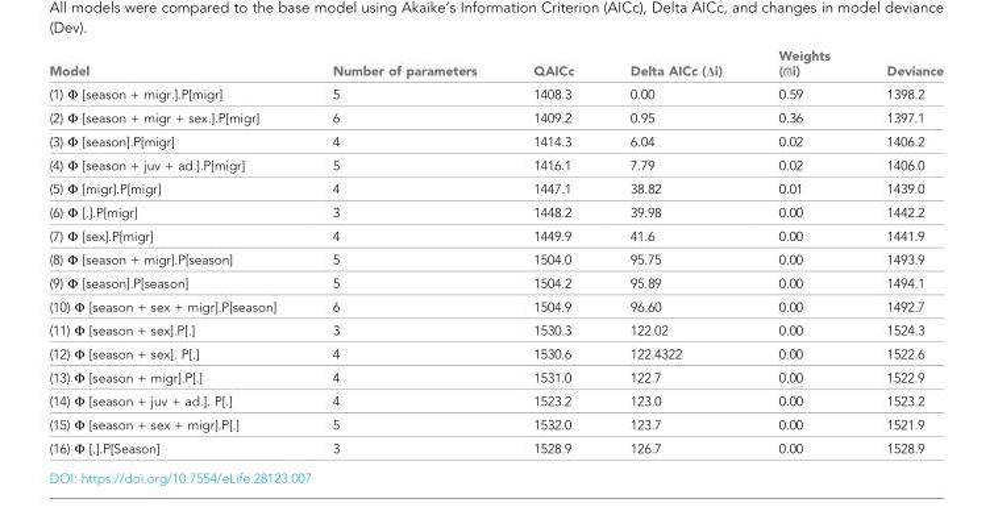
<table><thead><tr><td>Model</td><td>Number of parameters</td><td>QAICc</td><td>Delta AICc (Δi)</td><td>Weights (ωi)</td><td>Deviance</td></tr></thead><tbody><tr><td>(1) Φ [season + migr.].P[migr]</td><td>5</td><td>1408.3</td><td>0.00</td><td>0.59</td><td>1398.2</td></tr><tr><td>(2) Φ [season + migr + sex.].P[migr]</td><td>6</td><td>1409.2</td><td>0.95</td><td>0.36</td><td>1397.1</td></tr><tr><td>(3) Φ [season].P[migr]</td><td>4</td><td>1414.3</td><td>6.04</td><td>0.02</td><td>1406.2</td></tr><tr><td>(4) Φ [season + juv + ad.].P[migr]</td><td>5</td><td>1416.1</td><td>7.79</td><td>0.02</td><td>1406.0</td></tr><tr><td>(5) Φ [migr].P[migr]</td><td>4</td><td>1447.1</td><td>38.82</td><td>0.01</td><td>1439.0</td></tr><tr><td>(6) Φ [.].P[migr]</td><td>3</td><td>1448.2</td><td>39.98</td><td>0.00</td><td>1442.2</td></tr><tr><td>(7) Φ [sex].P[migr]</td><td>4</td><td>1449.9</td><td>41.6</td><td>0.00</td><td>1441.9</td></tr><tr><td>(8) Φ [season + migr].P[season]</td><td>5</td><td>1504.0</td><td>95.75</td><td>0.00</td><td>1493.9</td></tr><tr><td>(9) Φ [season].P[season]</td><td>5</td><td>1504.2</td><td>95.89</td><td>0.00</td><td>1494.1</td></tr><tr><td>(10) Φ [season + sex + migr].P[season]</td><td>6</td><td>1504.9</td><td>96.60</td><td>0.00</td><td>1492.7</td></tr><tr><td>(11) Φ [season + sex].P[.]</td><td>3</td><td>1530.3</td><td>122.02</td><td>0.00</td><td>1524.3</td></tr><tr><td>(12) Φ [season + sex]. P[.]</td><td>4</td><td>1530.6</td><td>122.4322</td><td>0.00</td><td>1522.6</td></tr><tr><td>(13) Φ [season + migr].P[.]</td><td>4</td><td>1531.0</td><td>122.7</td><td>0.00</td><td>1522.9</td></tr><tr><td>(14) Φ [season + juv + ad.]. P[.]</td><td>4</td><td>1523.2</td><td>123.0</td><td>0.00</td><td>1523.2</td></tr><tr><td>(15) Φ [season + sex + migr].P[.]</td><td>5</td><td>1532.0</td><td>123.7</td><td>0.00</td><td>1521.9</td></tr><tr><td>(16) Φ [.].P[Season]</td><td>3</td><td>1528.9</td><td>126.7</td><td>0.00</td><td>1528.9</td></tr></tbody></table>